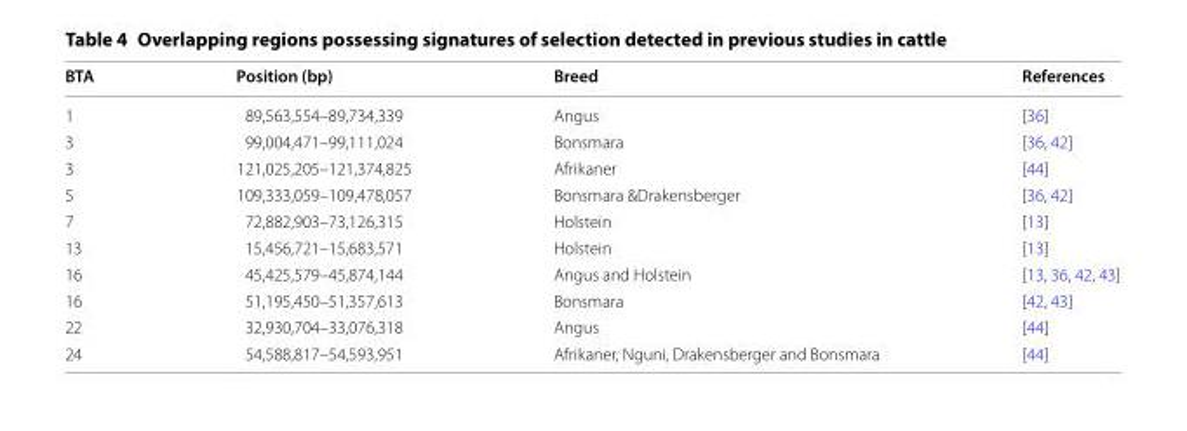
<table><thead><tr><td>BTA</td><td>Position (bp)</td><td>Breed</td><td>References</td></tr></thead><tbody><tr><td>1</td><td>89,563,554–89,734,339</td><td>Angus</td><td>[36]</td></tr><tr><td>3</td><td>99,004,471–99,111,024</td><td>Bonsmara</td><td>[36, 42]</td></tr><tr><td>3</td><td>121,025,205–121,374,825</td><td>Afrikaner</td><td>[44]</td></tr><tr><td>5</td><td>109,333,059–109,478,057</td><td>Bonsmara &amp;Drakensberger</td><td>[36, 42]</td></tr><tr><td>7</td><td>72,882,903–73,126,315</td><td>Holstein</td><td>[13]</td></tr><tr><td>13</td><td>15,456,721–15,683,571</td><td>Holstein</td><td>[13]</td></tr><tr><td>16</td><td>45,425,579–45,874,144</td><td>Angus and Holstein</td><td>[13, 36, 42, 43]</td></tr><tr><td>16</td><td>51,195,450–51,357,613</td><td>Bonsmara</td><td>[42, 43]</td></tr><tr><td>22</td><td>32,930,704–33,076,318</td><td>Angus</td><td>[44]</td></tr><tr><td>24</td><td>54,588,817–54,593,951</td><td>Afrikaner, Nguni, Drakensberger and Bonsmara</td><td>[44]</td></tr></tbody></table>